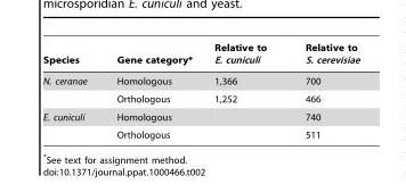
<table><thead><tr><td>Species</td><td>Gene category*</td><td>Relative to E. cuniculi</td><td>Relative to S. cerevisiae</td></tr></thead><tbody><tr><td rowspan="2">N. ceranae</td><td>Homologous</td><td>1,366</td><td>700</td></tr><tr><td>Orthologous</td><td>1,252</td><td>466</td></tr><tr><td rowspan="2">E. cuniculi</td><td>Homologous</td><td></td><td>740</td></tr><tr><td>Orthologous</td><td></td><td>511</td></tr></tbody></table>